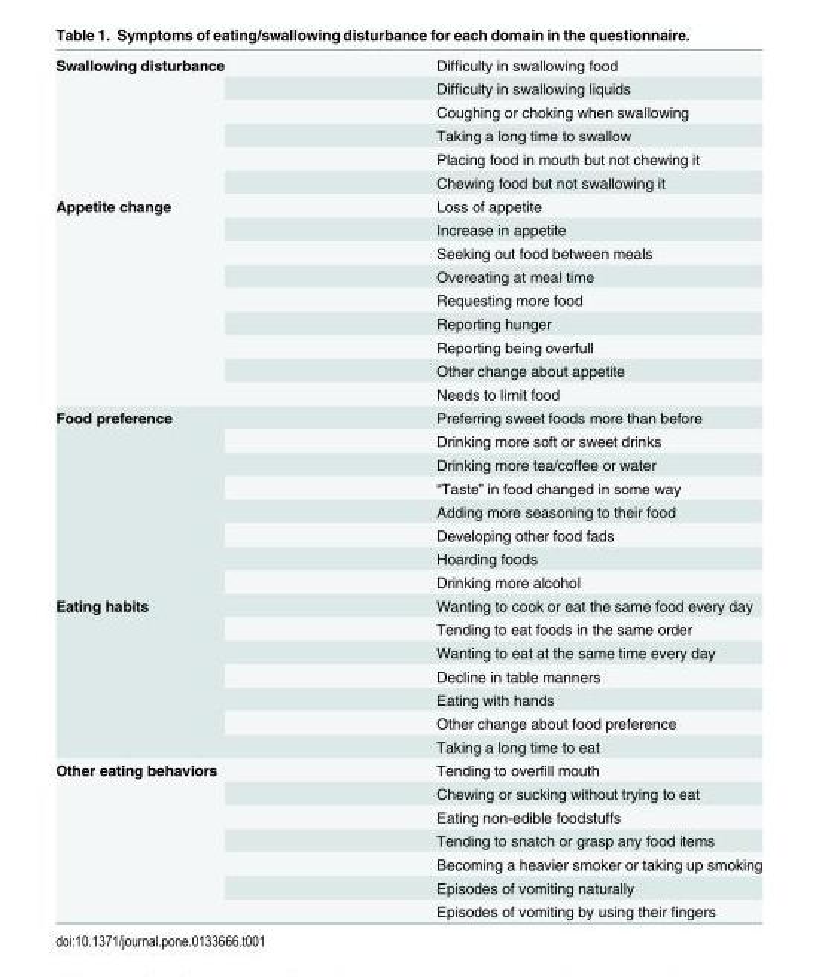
<table><tbody><tr><td rowspan="6">Swallowing disturbance</td><td>Difficulty in swallowing food</td></tr><tr><td>Difficulty in swallowing liquids</td></tr><tr><td>Coughing or choking when swallowing</td></tr><tr><td>Taking a long time to swallow</td></tr><tr><td>Placing food in mouth but not chewing it</td></tr><tr><td>Chewing food but not swallowing it</td></tr><tr><td rowspan="9">Appetite change</td><td>Loss of appetite</td></tr><tr><td>Increase in appetite</td></tr><tr><td>Seeking out food between meals</td></tr><tr><td>Overeating at meal time</td></tr><tr><td>Requesting more food</td></tr><tr><td>Reporting hunger</td></tr><tr><td>Reporting being overfull</td></tr><tr><td>Other change about appetite</td></tr><tr><td>Needs to limit food</td></tr><tr><td rowspan="8">Food preference</td><td>Preferring sweet foods more than before</td></tr><tr><td>Drinking more soft or sweet drinks</td></tr><tr><td>Drinking more tea/coffee or water</td></tr><tr><td>“Taste” in food changed in some way</td></tr><tr><td>Adding more seasoning to their food</td></tr><tr><td>Developing other food fads</td></tr><tr><td>Hoarding foods</td></tr><tr><td>Drinking more alcohol</td></tr><tr><td rowspan="7">Eating habits</td><td>Wanting to cook or eat the same food every day</td></tr><tr><td>Tending to eat foods in the same order</td></tr><tr><td>Wanting to eat at the same time every day</td></tr><tr><td>Decline in table manners</td></tr><tr><td>Eating with hands</td></tr><tr><td>Other change about food preference</td></tr><tr><td>Taking a long time to eat</td></tr><tr><td rowspan="7">Other eating behaviors</td><td>Tending to overfill mouth</td></tr><tr><td>Chewing or sucking without trying to eat</td></tr><tr><td>Eating non-edible foodstuffs</td></tr><tr><td>Tending to snatch or grasp any food items</td></tr><tr><td>Becoming a heavier smoker or taking up smoking</td></tr><tr><td>Episodes of vomiting naturally</td></tr><tr><td>Episodes of vomiting by using their fingers</td></tr></tbody></table>